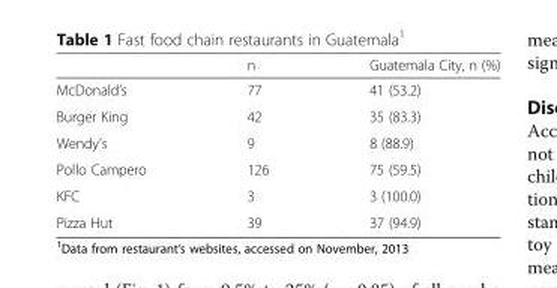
<table><thead><tr><td></td><td>n</td><td>Guatemala City, n (%)</td></tr></thead><tbody><tr><td>McDonald’s</td><td>77</td><td>41 (53.2)</td></tr><tr><td>Burger King</td><td>42</td><td>35 (83.3)</td></tr><tr><td>Wendy’s</td><td>9</td><td>8 (88.9)</td></tr><tr><td>Pollo Campero</td><td>126</td><td>75 (59.5)</td></tr><tr><td>KFC</td><td>3</td><td>3 (100.0)</td></tr><tr><td>Pizza Hut</td><td>39</td><td>37 (94.9)</td></tr></tbody></table>